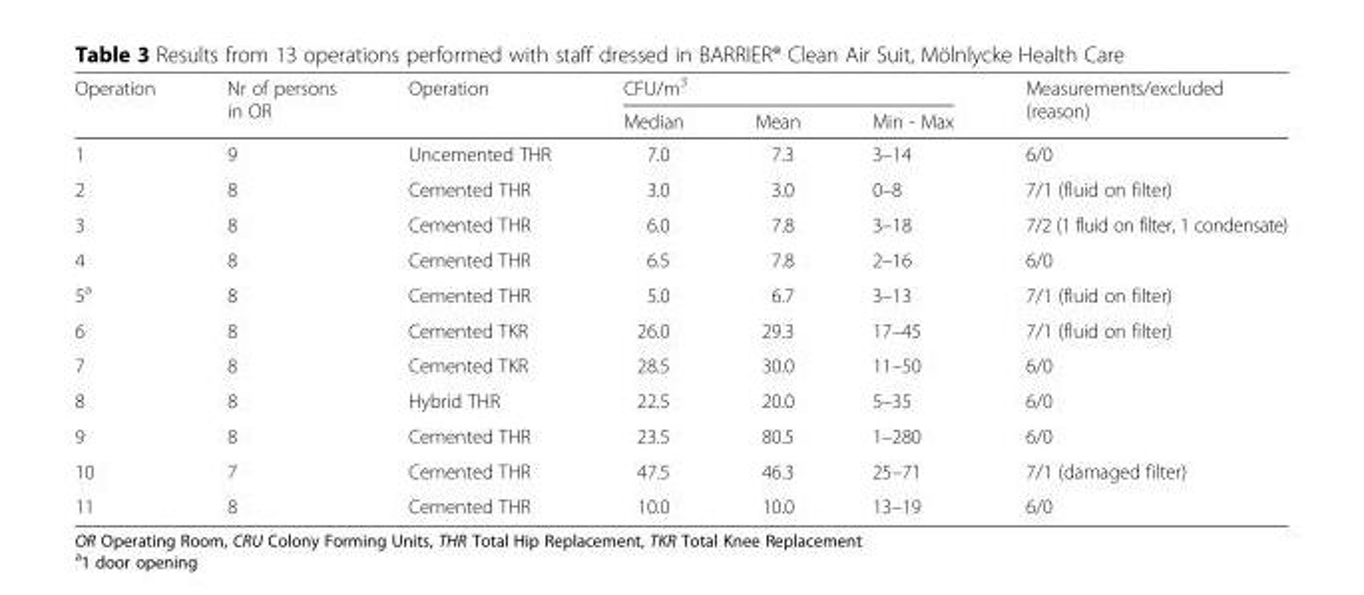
<table><thead><tr><td rowspan="2">Operation</td><td rowspan="2">Nr of persons in OR</td><td rowspan="2">Operation</td><td colspan="3">CFU/m<sup>3</sup></td><td rowspan="2">Measurements/excluded (reason)</td></tr><tr><td>Median</td><td>Mean</td><td>Min - Max</td></tr></thead><tbody><tr><td>1</td><td>9</td><td>Uncemented THR</td><td>7.0</td><td>7.3</td><td>3–14</td><td>6/0</td></tr><tr><td>2</td><td>8</td><td>Cemented THR</td><td>3.0</td><td>3.0</td><td>0–8</td><td>7/1 (fluid on filter)</td></tr><tr><td>3</td><td>8</td><td>Cemented THR</td><td>6.0</td><td>7.8</td><td>3–18</td><td>7/2 (1 fluid on filter, 1 condensate)</td></tr><tr><td>4</td><td>8</td><td>Cemented THR</td><td>6.5</td><td>7.8</td><td>2–16</td><td>6/0</td></tr><tr><td>5<sup>a</sup></td><td>8</td><td>Cemented THR</td><td>5.0</td><td>6.7</td><td>3–13</td><td>7/1 (fluid on filter)</td></tr><tr><td>6</td><td>8</td><td>Cemented TKR</td><td>26.0</td><td>29.3</td><td>17–45</td><td>7/1 (fluid on filter)</td></tr><tr><td>7</td><td>8</td><td>Cemented TKR</td><td>28.5</td><td>30.0</td><td>11–50</td><td>6/0</td></tr><tr><td>8</td><td>8</td><td>Hybrid THR</td><td>22.5</td><td>20.0</td><td>5–35</td><td>6/0</td></tr><tr><td>9</td><td>8</td><td>Cemented THR</td><td>23.5</td><td>80.5</td><td>1–280</td><td>6/0</td></tr><tr><td>10</td><td>7</td><td>Cemented THR</td><td>47.5</td><td>46.3</td><td>25–71</td><td>7/1 (damaged filter)</td></tr><tr><td>11</td><td>8</td><td>Cemented THR</td><td>10.0</td><td>10.0</td><td>13–19</td><td>6/0</td></tr></tbody></table>